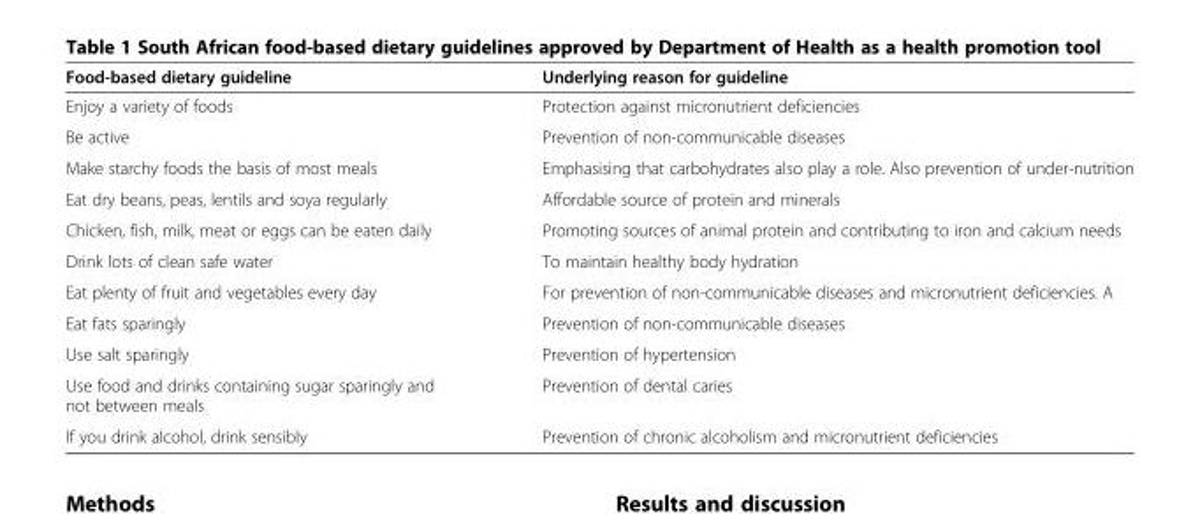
<table><thead><tr><td>Food-based dietary guideline</td><td>Underlying reason for guideline</td></tr></thead><tbody><tr><td>Enjoy a variety of foods</td><td>Protection against micronutrient deficiencies</td></tr><tr><td>Be active</td><td>Prevention of non-communicable diseases</td></tr><tr><td>Make starchy foods the basis of most meals</td><td>Emphasising that carbohydrates also play a role. Also prevention of under-nutrition</td></tr><tr><td>Eat dry beans, peas, lentils and soya regularly</td><td>Affordable source of protein and minerals</td></tr><tr><td>Chicken, fish, milk, meat or eggs can be eaten daily</td><td>Promoting sources of animal protein and contributing to iron and calcium needs</td></tr><tr><td>Drink lots of clean safe water</td><td>To maintain healthy body hydration</td></tr><tr><td>Eat plenty of fruit and vegetables every day</td><td>For prevention of non-communicable diseases and micronutrient deficiencies. A</td></tr><tr><td>Eat fats sparingly</td><td>Prevention of non-communicable diseases</td></tr><tr><td>Use salt sparingly</td><td>Prevention of hypertension</td></tr><tr><td>Use food and drinks containing sugar sparingly and not between meals</td><td>Prevention of dental caries</td></tr><tr><td>If you drink alcohol, drink sensibly</td><td>Prevention of chronic alcoholism and micronutrient deficiencies</td></tr></tbody></table>